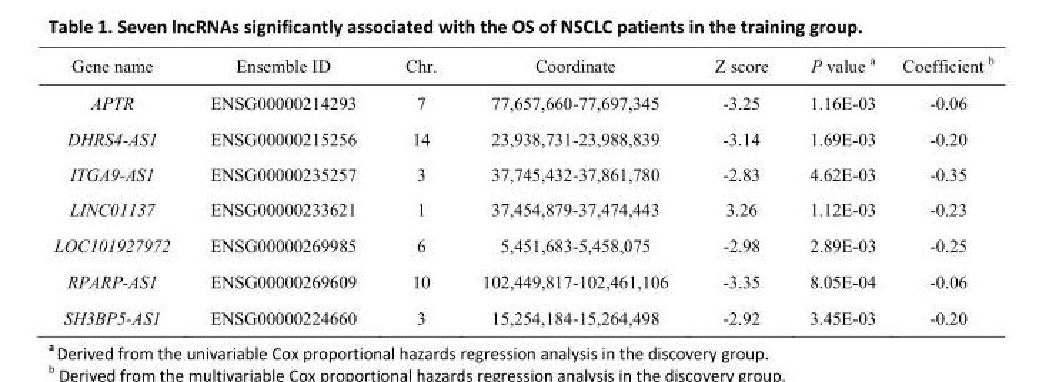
<table><tbody><tr><td>Gene name</td><td>Ensemble ID</td><td>Chr.</td><td>Coordinate</td><td>Z score</td><td>P value <sup>a</sup></td><td>Coefficient <sup>b</sup></td></tr><tr><td>APTR</td><td>ENSG00000214293</td><td>7</td><td>77,657,660-77,697,345</td><td>-3.25</td><td>1.16E-03</td><td>-0.06</td></tr><tr><td>DHRS4-AS1</td><td>ENSG00000215256</td><td>14</td><td>23,938,731-23,988,839</td><td>-3.14</td><td>1.69E-03</td><td>-0.20</td></tr><tr><td>ITGA9-AS1</td><td>ENSG00000235257</td><td>3</td><td>37,745,432-37,861,780</td><td>-2.83</td><td>4.62E-03</td><td>-0.35</td></tr><tr><td>LINC01137</td><td>ENSG00000233621</td><td>1</td><td>37,454,879-37,474,443</td><td>3.26</td><td>1.12E-03</td><td>-0.23</td></tr><tr><td>LOC101927972</td><td>ENSG00000269985</td><td>6</td><td>5,451,683-5,458,075</td><td>-2.98</td><td>2.89E-03</td><td>-0.25</td></tr><tr><td>RPARP-AS1</td><td>ENSG00000269609</td><td>10</td><td>102,449,817-102,461,106</td><td>-3.35</td><td>8.05E-04</td><td>-0.06</td></tr><tr><td>SH3BP5-AS1</td><td>ENSG00000224660</td><td>3</td><td>15,254,184-15,264,498</td><td>-2.92</td><td>3.45E-03</td><td>-0.20</td></tr></tbody></table>